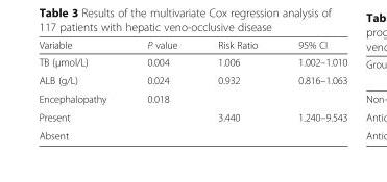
<table><thead><tr><td>Variable</td><td>P value</td><td>Risk Ratio</td><td>95% CI</td></tr></thead><tbody><tr><td>TB (μmol/L)</td><td>0.004</td><td>1.006</td><td>1.002–1.010</td></tr><tr><td>ALB (g/L)</td><td>0.024</td><td>0.932</td><td>0.816–1.063</td></tr><tr><td>Encephalopathy</td><td>0.018</td><td></td><td></td></tr><tr><td>Present</td><td></td><td>3.440</td><td>1.240–9.543</td></tr><tr><td>Absent</td><td></td><td></td><td></td></tr></tbody></table>